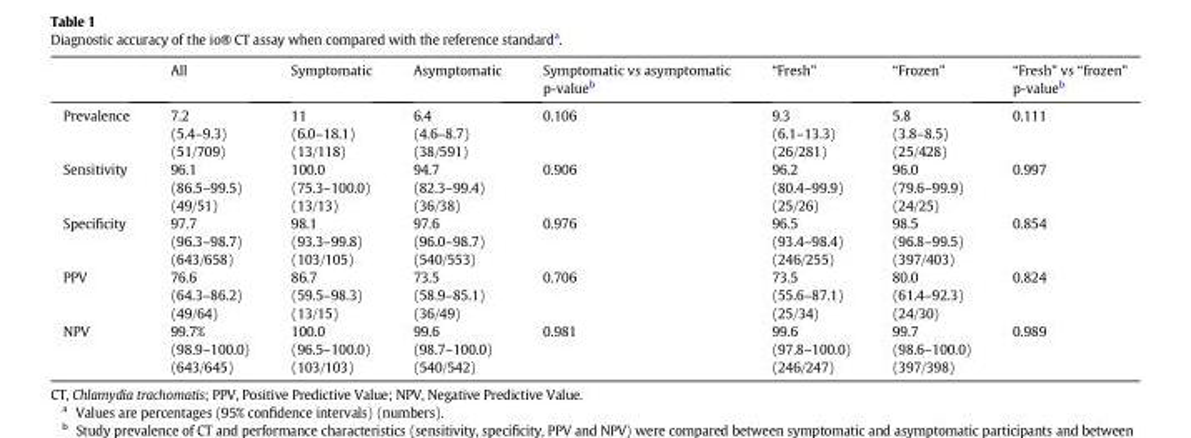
<table><thead><tr><td></td><td>All</td><td>Symptomatic</td><td>Asymptomatic</td><td>Symptomatic vs asymptomatic p-value<sup>b</sup></td><td>“Fresh”</td><td>“Frozen”</td><td>“Fresh” vs “frozen” p-value<sup>b</sup></td></tr></thead><tbody><tr><td>Prevalence</td><td>7.2 (5.4–9.3) (51/709)</td><td>11 (6.0–18.1) (13/118)</td><td>6.4 (4.6–8.7) (38/591)</td><td>0.106</td><td>9.3 (6.1–13.3) (26/281)</td><td>5.8 (3.8–8.5) (25/428)</td><td>0.111</td></tr><tr><td>Sensitivity</td><td>96.1 (86.5–99.5) (49/51)</td><td>100.0 (75.3–100.0) (13/13)</td><td>94.7 (82.3–99.4) (36/38)</td><td>0.906</td><td>96.2 (80.4–99.9) (25/26)</td><td>96.0 (79.6–99.9) (24/25)</td><td>0.997</td></tr><tr><td>Specificity</td><td>97.7 (96.3–98.7) (643/658)</td><td>98.1 (93.3–99.8) (103/105)</td><td>97.6 (96.0–98.7) (540/553)</td><td>0.976</td><td>96.5 (93.4–98.4) (246/255)</td><td>98.5 (96.8–99.5) (397/403)</td><td>0.854</td></tr><tr><td>PPV</td><td>76.6 (64.3–86.2) (49/64)</td><td>86.7 (59.5–98.3) (13/15)</td><td>73.5 (58.9–85.1) (36/49)</td><td>0.706</td><td>73.5 (55.6–87.1) (25/34)</td><td>80.0 (61.4–92.3) (24/30)</td><td>0.824</td></tr><tr><td>NPV</td><td>99.7% (98.9–100.0) (643/645)</td><td>100.0 (96.5–100.0) (103/103)</td><td>99.6 (98.7–100.0) (540/542)</td><td>0.981</td><td>99.6 (97.8–100.0) (246/247)</td><td>99.7 (98.6–100.0) (397/398)</td><td>0.989</td></tr></tbody></table>